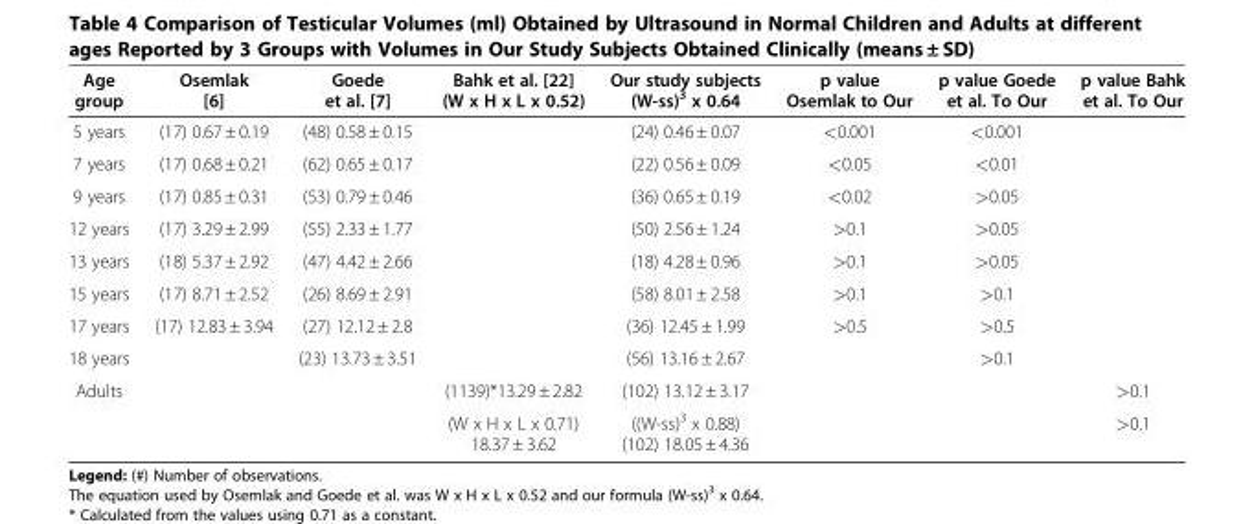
<table><thead><tr><td>Age group</td><td>Osemlak [6]</td><td>Goede et al. [7]</td><td>Bahk et al. [22] (W x H x L x 0.52)</td><td>Our study subjects (W-ss)<sup>3</sup> x 0.64</td><td>p value Osemlak to Our</td><td>p value Goede et al. To Our</td><td>p value Bahk et al. To Our</td></tr></thead><tbody><tr><td>5 years</td><td>(17) 0.67 ± 0.19</td><td>(48) 0.58 ± 0.15</td><td></td><td>(24) 0.46 ± 0.07</td><td>&lt;0.001</td><td>&lt;0.001</td><td></td></tr><tr><td>7 years</td><td>(17) 0.68 ± 0.21</td><td>(62) 0.65 ± 0.17</td><td></td><td>(22) 0.56 ± 0.09</td><td>&lt;0.05</td><td>&lt;0.01</td><td></td></tr><tr><td>9 years</td><td>(17) 0.85 ± 0.31</td><td>(53) 0.79 ± 0.46</td><td></td><td>(36) 0.65 ± 0.19</td><td>&lt;0.02</td><td>&gt;0.05</td><td></td></tr><tr><td>12 years</td><td>(17) 3.29 ± 2.99</td><td>(55) 2.33 ± 1.77</td><td></td><td>(50) 2.56 ± 1.24</td><td>&gt;0.1</td><td>&gt;0.05</td><td></td></tr><tr><td>13 years</td><td>(18) 5.37 ± 2.92</td><td>(47) 4.42 ± 2.66</td><td></td><td>(18) 4.28 ± 0.96</td><td>&gt;0.1</td><td>&gt;0.05</td><td></td></tr><tr><td>15 years</td><td>(17) 8.71 ± 2.52</td><td>(26) 8.69 ± 2.91</td><td></td><td>(58) 8.01 ± 2.58</td><td>&gt;0.1</td><td>&gt;0.1</td><td></td></tr><tr><td>17 years</td><td>(17) 12.83 ± 3.94</td><td>(27) 12.12 ± 2.8</td><td></td><td>(36) 12.45 ± 1.99</td><td>&gt;0.5</td><td>&gt;0.5</td><td></td></tr><tr><td>18 years</td><td></td><td>(23) 13.73 ± 3.51</td><td></td><td>(56) 13.16 ± 2.67</td><td></td><td>&gt;0.1</td><td></td></tr><tr><td rowspan="2">Adults</td><td></td><td></td><td>(1139)*13.29 ± 2.82</td><td>(102) 13.12 ± 3.17</td><td></td><td></td><td>&gt;0.1</td></tr><tr><td></td><td></td><td>(W x H x L x 0.71) 18.37 ± 3.62</td><td>((W-ss)<sup>3</sup> x 0.88) (102) 18.05 ± 4.36</td><td></td><td></td><td>&gt;0.1</td></tr></tbody></table>